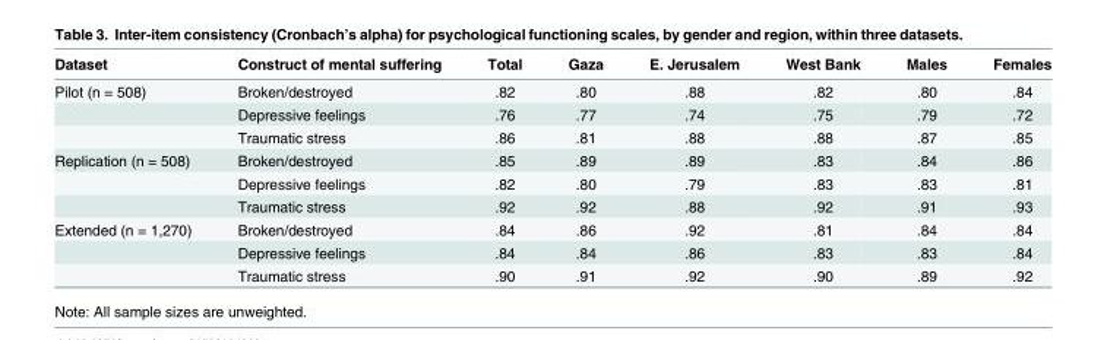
<table><thead><tr><td>Dataset</td><td>Construct of mental suffering</td><td>Total</td><td>Gaza</td><td>E. Jerusalem</td><td>West Bank</td><td>Males</td><td>Females</td></tr></thead><tbody><tr><td rowspan="3">Pilot (n = 508)</td><td>Broken/destroyed</td><td>.82</td><td>.80</td><td>.88</td><td>.82</td><td>.80</td><td>.84</td></tr><tr><td>Depressive feelings</td><td>.76</td><td>.77</td><td>.74</td><td>.75</td><td>.79</td><td>.72</td></tr><tr><td>Traumatic stress</td><td>.86</td><td>.81</td><td>.88</td><td>.88</td><td>.87</td><td>.85</td></tr><tr><td rowspan="3">Replication (n = 508)</td><td>Broken/destroyed</td><td>.85</td><td>.89</td><td>.89</td><td>.83</td><td>.84</td><td>.86</td></tr><tr><td>Depressive feelings</td><td>.82</td><td>.80</td><td>.79</td><td>.83</td><td>.83</td><td>.81</td></tr><tr><td>Traumatic stress</td><td>.92</td><td>.92</td><td>.88</td><td>.92</td><td>.91</td><td>.93</td></tr><tr><td rowspan="3">Extended (n = 1,270)</td><td>Broken/destroyed</td><td>.84</td><td>.86</td><td>.92</td><td>.81</td><td>.84</td><td>.84</td></tr><tr><td>Depressive feelings</td><td>.84</td><td>.84</td><td>.86</td><td>.83</td><td>.83</td><td>.84</td></tr><tr><td>Traumatic stress</td><td>.90</td><td>.91</td><td>.92</td><td>.90</td><td>.89</td><td>.92</td></tr></tbody></table>